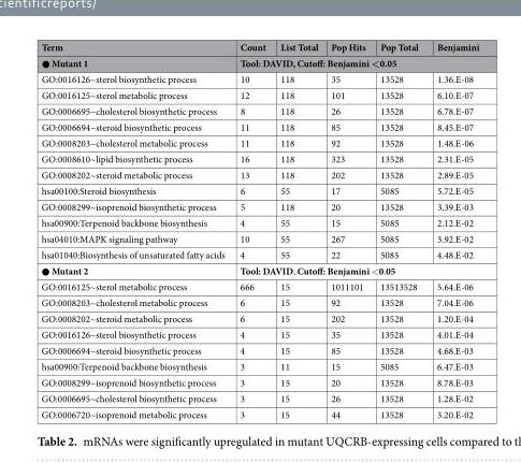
<table><thead><tr><td rowspan="2">Term ● Mutant 1</td><td>Count</td><td>List Total</td><td>Pop Hits</td><td>Pop Total</td><td>Benjamini</td></tr><tr><td colspan="5">Tool: DAVID, Cutoff: Benjamini &lt;0.05</td></tr></thead><tbody><tr><td>GO:0016126~sterol biosynthetic process</td><td>10</td><td>118</td><td>35</td><td>13528</td><td>1.36.E-08</td></tr><tr><td>GO:0016125~sterol metabolic process</td><td>12</td><td>118</td><td>101</td><td>13528</td><td>6.10.E-07</td></tr><tr><td>GO:0006695~cholesterol biosynthetic process</td><td>8</td><td>118</td><td>26</td><td>13528</td><td>6.78.E-07</td></tr><tr><td>GO:0006694~steroid biosynthetic process</td><td>11</td><td>118</td><td>85</td><td>13528</td><td>8.45.E-07</td></tr><tr><td>GO:0008203~cholesterol metabolic process</td><td>11</td><td>118</td><td>92</td><td>13528</td><td>1.48.E-06</td></tr><tr><td>GO:0008610~lipid biosynthetic process</td><td>16</td><td>118</td><td>323</td><td>13528</td><td>2.31.E-05</td></tr><tr><td>GO:0008202~steroid metabolic process</td><td>13</td><td>118</td><td>202</td><td>13528</td><td>2.89.E-05</td></tr><tr><td>hsa00100:Steroid biosynthesis</td><td>6</td><td>55</td><td>17</td><td>5085</td><td>5.72.E-05</td></tr><tr><td>GO:0008299~isoprenoid biosynthetic process</td><td>5</td><td>118</td><td>20</td><td>13528</td><td>3.39.E-03</td></tr><tr><td>hsa00900:Terpenoid backbone biosynthesis</td><td>4</td><td>55</td><td>15</td><td>5085</td><td>2.12.E-02</td></tr><tr><td>hsa04010:MAPK signaling pathway</td><td>10</td><td>55</td><td>267</td><td>5085</td><td>3.92.E-02</td></tr><tr><td>hsa01040:Biosynthesis of unsaturated fatty acids</td><td>4</td><td>55</td><td>22</td><td>5085</td><td>4.48.E-02</td></tr><tr><td>● Mutant 2</td><td colspan="5">Tool: DAVID, Cutoff: Benjamini &lt;0.05</td></tr><tr><td>GO:0016125~sterol metabolic process</td><td>666</td><td>15</td><td>1011101</td><td>13513528</td><td>5.64.E-06</td></tr><tr><td>GO:0008203~cholesterol metabolic process</td><td>6</td><td>15</td><td>92</td><td>13528</td><td>7.04.E-06</td></tr><tr><td>GO:0008202~steroid metabolic process</td><td>6</td><td>15</td><td>202</td><td>13528</td><td>1.20.E-04</td></tr><tr><td>GO:0016126~sterol biosynthetic process</td><td>4</td><td>15</td><td>35</td><td>13528</td><td>4.01.E-04</td></tr><tr><td>GO:0006694~steroid biosynthetic process</td><td>4</td><td>15</td><td>85</td><td>13528</td><td>4.68.E-03</td></tr><tr><td>hsa00900:Terpenoid backbone biosynthesis</td><td>3</td><td>11</td><td>15</td><td>5085</td><td>6.47.E-03</td></tr><tr><td>GO:0008299~isoprenoid biosynthetic process</td><td>3</td><td>15</td><td>20</td><td>13528</td><td>8.78.E-03</td></tr><tr><td>GO:0006695~cholesterol biosynthetic process</td><td>3</td><td>15</td><td>26</td><td>13528</td><td>1.28.E-02</td></tr><tr><td>GO:0006720~isoprenoid metabolic process</td><td>3</td><td>15</td><td>44</td><td>13528</td><td>3.20.E-02</td></tr></tbody></table>